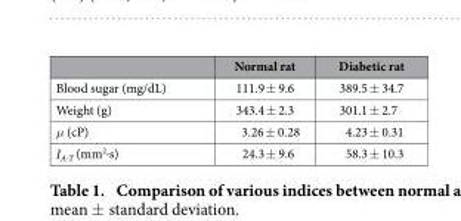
<table><thead><tr><td></td><td>Normal rat</td><td>Diabetic rat</td></tr></thead><tbody><tr><td>Blood sugar (mg/dL)</td><td>111.9 ± 9.6</td><td>389.5 ± 34.7</td></tr><tr><td>Weight (g)</td><td>343.4 ± 2.3</td><td>301.1 ± 2.7</td></tr><tr><td>μ (cP)</td><td>3.26 ± 0.28</td><td>4.23 ± 0.31</td></tr><tr><td>I<sub>A·T</sub> (mm<sup>2</sup>·s)</td><td>24.3 ± 9.6</td><td>58.3 ± 10.3</td></tr></tbody></table>